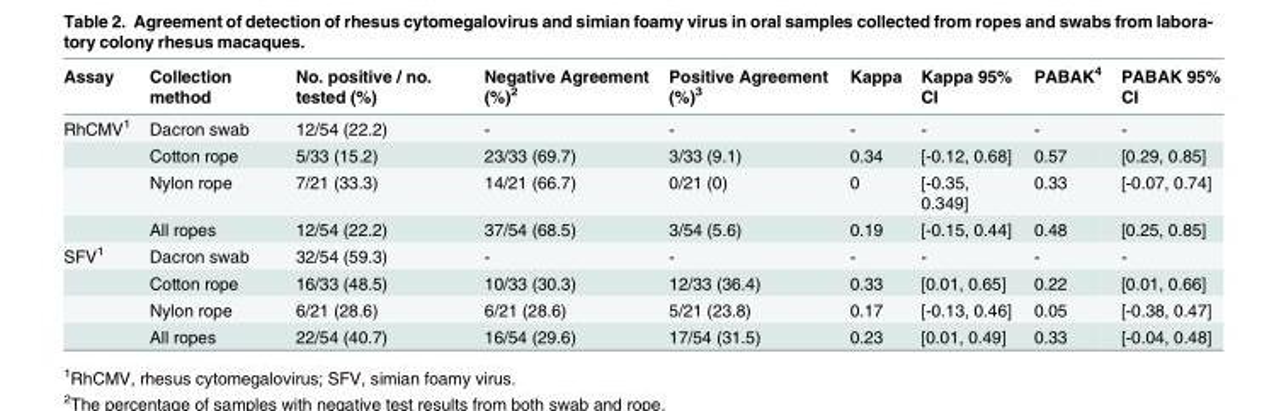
<table><thead><tr><td>Assay</td><td>Collection method</td><td>No. positive / no. tested (%)</td><td>Negative Agreement (%)<sup>2</sup></td><td>Positive Agreement (%)<sup>3</sup></td><td>Kappa</td><td>Kappa 95% CI</td><td>PABAK<sup>4</sup></td><td>PABAK 95% CI</td></tr></thead><tbody><tr><td rowspan="4">RhCMV<sup>1</sup></td><td>Dacron swab</td><td>12/54 (22.2)</td><td>-</td><td>-</td><td>-</td><td>-</td><td>-</td><td>-</td></tr><tr><td>Cotton rope</td><td>5/33 (15.2)</td><td>23/33 (69.7)</td><td>3/33 (9.1)</td><td>0.34</td><td>[-0.12, 0.68]</td><td>0.57</td><td>[0.29, 0.85]</td></tr><tr><td>Nylon rope</td><td>7/21 (33.3)</td><td>14/21 (66.7)</td><td>0/21 (0)</td><td>0</td><td>[-0.35, 0.349]</td><td>0.33</td><td>[-0.07, 0.74]</td></tr><tr><td>All ropes</td><td>12/54 (22.2)</td><td>37/54 (68.5)</td><td>3/54 (5.6)</td><td>0.19</td><td>[-0.15, 0.44]</td><td>0.48</td><td>[0.25, 0.85]</td></tr><tr><td rowspan="4">SFV<sup>1</sup></td><td>Dacron swab</td><td>32/54 (59.3)</td><td>-</td><td>-</td><td>-</td><td>-</td><td>-</td><td>-</td></tr><tr><td>Cotton rope</td><td>16/33 (48.5)</td><td>10/33 (30.3)</td><td>12/33 (36.4)</td><td>0.33</td><td>[0.01, 0.65]</td><td>0.22</td><td>[0.01, 0.66]</td></tr><tr><td>Nylon rope</td><td>6/21 (28.6)</td><td>6/21 (28.6)</td><td>5/21 (23.8)</td><td>0.17</td><td>[-0.13, 0.46]</td><td>0.05</td><td>[-0.38, 0.47]</td></tr><tr><td>All ropes</td><td>22/54 (40.7)</td><td>16/54 (29.6)</td><td>17/54 (31.5)</td><td>0.23</td><td>[0.01, 0.49]</td><td>0.33</td><td>[-0.04, 0.48]</td></tr></tbody></table>